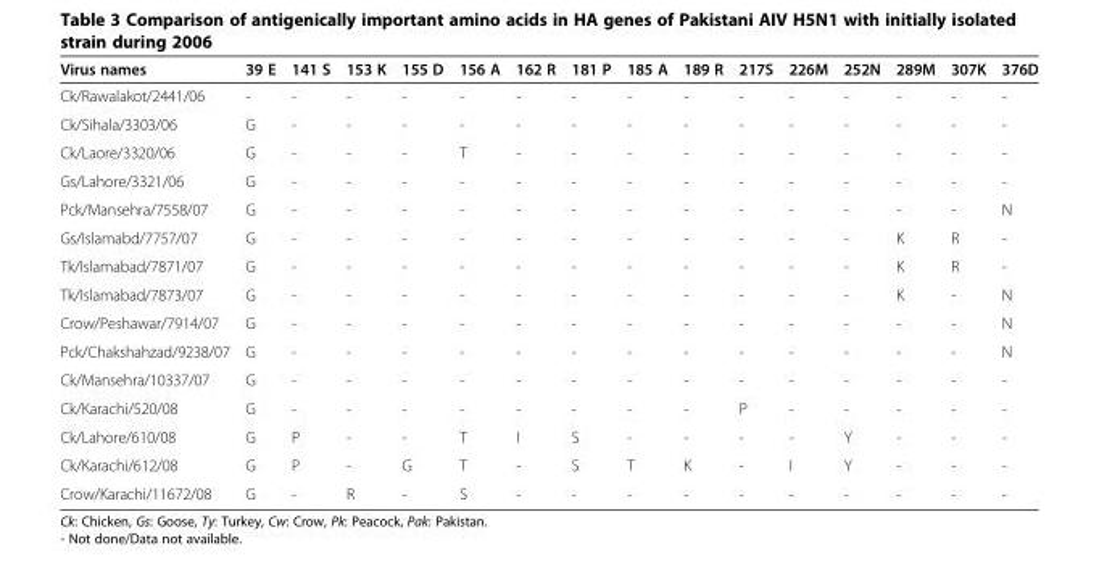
<table><thead><tr><td>Virus names</td><td>39 E</td><td>141 S</td><td>153 K</td><td>155 D</td><td>156 A</td><td>162 R</td><td>181 P</td><td>185 A</td><td>189 R</td><td>217S</td><td>226M</td><td>252N</td><td>289M</td><td>307K</td><td>376D</td></tr></thead><tbody><tr><td>Ck/Rawalakot/2441/06</td><td>-</td><td>-</td><td>-</td><td>-</td><td>-</td><td>-</td><td>-</td><td>-</td><td>-</td><td>-</td><td>-</td><td>-</td><td>-</td><td>-</td><td>-</td></tr><tr><td>Ck/Sihala/3303/06</td><td>G</td><td>-</td><td>-</td><td>-</td><td>-</td><td>-</td><td>-</td><td>-</td><td>-</td><td>-</td><td>-</td><td>-</td><td>-</td><td>-</td><td>-</td></tr><tr><td>Ck/Laore/3320/06</td><td>G</td><td>-</td><td>-</td><td>-</td><td>T</td><td>-</td><td>-</td><td>-</td><td>-</td><td>-</td><td>-</td><td>-</td><td>-</td><td>-</td><td>-</td></tr><tr><td>Gs/Lahore/3321/06</td><td>G</td><td>-</td><td>-</td><td>-</td><td>-</td><td>-</td><td>-</td><td>-</td><td>-</td><td>-</td><td>-</td><td>-</td><td>-</td><td>-</td><td>-</td></tr><tr><td>Pck/Mansehra/7558/07</td><td>G</td><td>-</td><td>-</td><td>-</td><td>-</td><td>-</td><td>-</td><td>-</td><td>-</td><td>-</td><td>-</td><td>-</td><td>-</td><td>-</td><td>N</td></tr><tr><td>Gs/Islamabd/7757/07</td><td>G</td><td>-</td><td>-</td><td>-</td><td>-</td><td>-</td><td>-</td><td>-</td><td>-</td><td>-</td><td>-</td><td>-</td><td>K</td><td>R</td><td>-</td></tr><tr><td>Tk/Islamabad/7871/07</td><td>G</td><td>-</td><td>-</td><td>-</td><td>-</td><td>-</td><td>-</td><td>-</td><td>-</td><td>-</td><td>-</td><td>-</td><td>K</td><td>R</td><td>-</td></tr><tr><td>Tk/Islamabad/7873/07</td><td>G</td><td>-</td><td>-</td><td>-</td><td>-</td><td>-</td><td>-</td><td>-</td><td>-</td><td>-</td><td>-</td><td>-</td><td>K</td><td>-</td><td>N</td></tr><tr><td>Crow/Peshawar/7914/07</td><td>G</td><td>-</td><td>-</td><td>-</td><td>-</td><td>-</td><td>-</td><td>-</td><td>-</td><td>-</td><td>-</td><td>-</td><td>-</td><td>-</td><td>N</td></tr><tr><td>Pck/Chakshahzad/9238/07</td><td>G</td><td>-</td><td>-</td><td>-</td><td>-</td><td>-</td><td>-</td><td>-</td><td>-</td><td>-</td><td>-</td><td>-</td><td>-</td><td>-</td><td>N</td></tr><tr><td>Ck/Mansehra/10337/07</td><td>G</td><td>-</td><td>-</td><td>-</td><td>-</td><td>-</td><td>-</td><td>-</td><td>-</td><td>-</td><td>-</td><td>-</td><td>-</td><td>-</td><td>-</td></tr><tr><td>Ck/Karachi/520/08</td><td>G</td><td>-</td><td>-</td><td>-</td><td>-</td><td>-</td><td>-</td><td>-</td><td>-</td><td>P</td><td>-</td><td>-</td><td>-</td><td>-</td><td>-</td></tr><tr><td>Ck/Lahore/610/08</td><td>G</td><td>P</td><td>-</td><td>-</td><td>T</td><td>I</td><td>S</td><td>-</td><td>-</td><td>-</td><td>-</td><td>Y</td><td>-</td><td>-</td><td>-</td></tr><tr><td>Ck/Karachi/612/08</td><td>G</td><td>P</td><td>-</td><td>G</td><td>T</td><td>-</td><td>S</td><td>T</td><td>K</td><td>-</td><td>I</td><td>Y</td><td>-</td><td>-</td><td>-</td></tr><tr><td>Crow/Karachi/11672/08</td><td>G</td><td>-</td><td>R</td><td>-</td><td>S</td><td>-</td><td>-</td><td>-</td><td>-</td><td>-</td><td>-</td><td>-</td><td>-</td><td>-</td><td>-</td></tr></tbody></table>